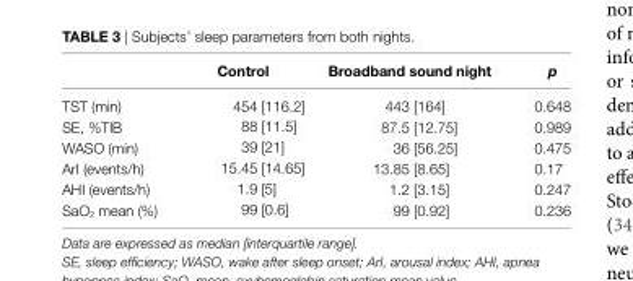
<table><thead><tr><td></td><td>control</td><td>Broadband sound night</td><td>p</td></tr></thead><tbody><tr><td>TST (min)</td><td>454 [116.2]</td><td>443 [164]</td><td>0.648</td></tr><tr><td>SE, %TIB</td><td>88 [11.5]</td><td>87.5 [12.75]</td><td>0.989</td></tr><tr><td>WASO (min)</td><td>39 [21]</td><td>36 [56.25]</td><td>0.475</td></tr><tr><td>ArI (events/h)</td><td>15.45 [14.65]</td><td>13.85 [8.65]</td><td>0.17</td></tr><tr><td>AHI (events/h)</td><td>1.9 [5]</td><td>1.2 [3.15]</td><td>0.247</td></tr><tr><td>SaO<sub>2</sub> mean (%)</td><td>99 [0.6]</td><td>99 [0.92]</td><td>0.236</td></tr></tbody></table>